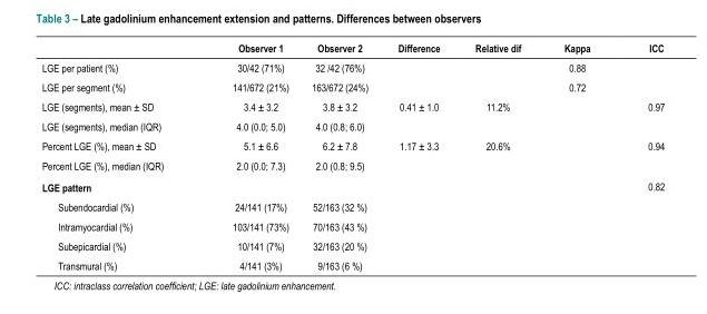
<table><thead><tr><td></td><td>Observer 1</td><td>Observer 2</td><td>Difference</td><td>Relative dif</td><td>Kappa</td><td>ICC</td></tr></thead><tbody><tr><td>LGE per patient (%)</td><td>30/42 (71%)</td><td>32 /42 (76%)</td><td></td><td></td><td>0.88</td><td></td></tr><tr><td>LGE per segment (%)</td><td>141/672 (21%)</td><td>163/672 (24%)</td><td></td><td></td><td>0.72</td><td></td></tr><tr><td>LGE (segments), mean ± SD</td><td>3.4 ± 3.2</td><td>3.8 ± 3.2</td><td>0.41 ± 1.0</td><td>11.2%</td><td></td><td>0.97</td></tr><tr><td>LGE (segments), median (IQR)</td><td>4.0 (0.0; 5.0)</td><td>4.0 (0.8; 6.0)</td><td></td><td></td><td></td><td></td></tr><tr><td>Percent LGE (%), mean ± SD</td><td>5.1 ± 6.6</td><td>6.2 ± 7.8</td><td>1.17 ± 3.3</td><td>20.6%</td><td></td><td>0.94</td></tr><tr><td>Percent LGE (%), median (IQR)</td><td>2.0 (0.0; 7.3)</td><td>2.0 (0.8; 9.5)</td><td></td><td></td><td></td><td></td></tr><tr><td>LGE pattern</td><td></td><td></td><td></td><td></td><td></td><td>0.82</td></tr><tr><td>Subendocardial (%)</td><td>24/141 (17%)</td><td>52/163 (32 %)</td><td></td><td></td><td></td><td></td></tr><tr><td>Intramyocardial (%)</td><td>103/141 (73%)</td><td>70/163 (43 %)</td><td></td><td></td><td></td><td></td></tr><tr><td>Subepicardial (%)</td><td>10/141 (7%)</td><td>32/163 (20 %)</td><td></td><td></td><td></td><td></td></tr><tr><td>Transmural (%)</td><td>4/141 (3%)</td><td>9/163 (6 %)</td><td></td><td></td><td></td><td></td></tr></tbody></table>